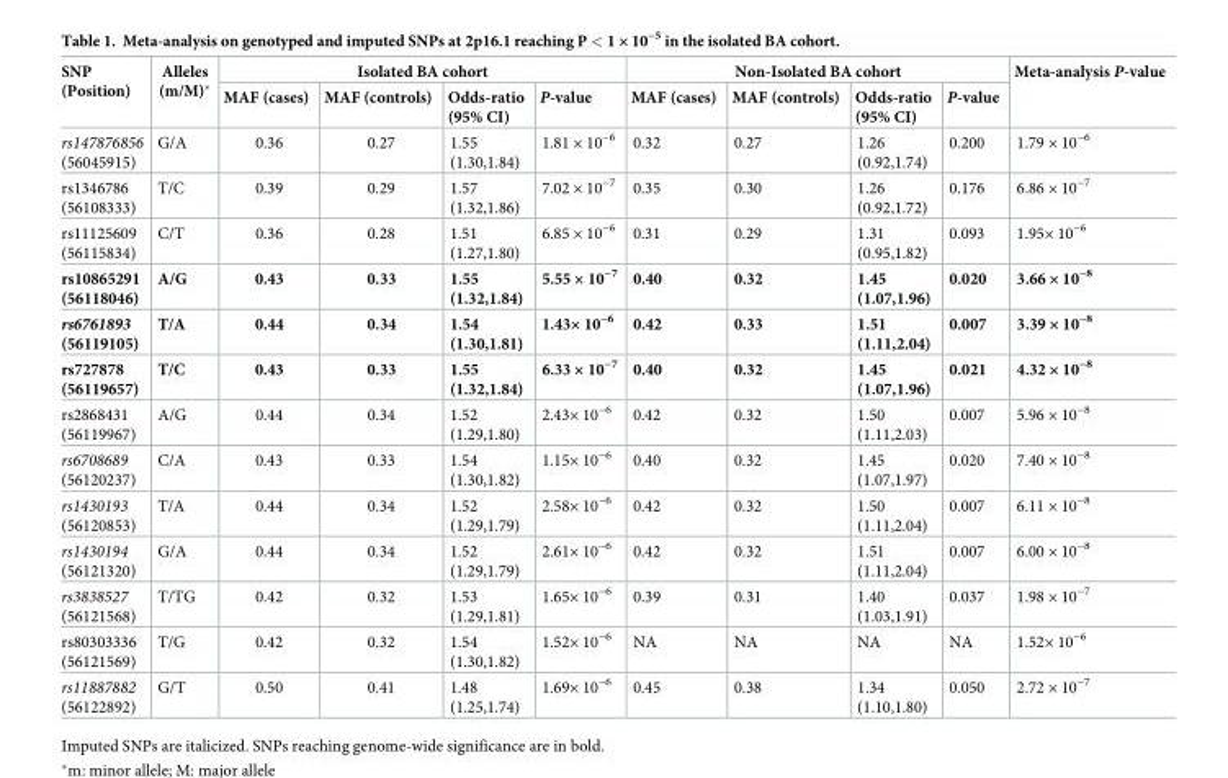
<table><thead><tr><td rowspan="2">SNP (Position)</td><td rowspan="2">Alleles (m/M)*</td><td colspan="4">Isolated BA cohort</td><td colspan="4">Non-Isolated BA cohort</td><td rowspan="2">Meta-analysis P-value</td></tr><tr><td>MAF (cases)</td><td>MAF (controls)</td><td>Odds-ratio (95% CI)</td><td>P-value</td><td>MAF (cases)</td><td>MAF (controls)</td><td>Odds-ratio (95% CI)</td><td>P-value</td></tr></thead><tbody><tr><td>rs147876856 (56045915)</td><td>G/A</td><td>0.36</td><td>0.27</td><td>1.55 (1.30,1.84)</td><td>1.81 × 10<sup>−6</sup></td><td>0.32</td><td>0.27</td><td>1.26 (0.92,1.74)</td><td>0.200</td><td>1.79 × 10<sup>−6</sup></td></tr><tr><td>rs1346786 (56108333)</td><td>T/C</td><td>0.39</td><td>0.29</td><td>1.57 (1.32,1.86)</td><td>7.02 × 10<sup>−7</sup></td><td>0.35</td><td>0.30</td><td>1.26 (0.92,1.72)</td><td>0.176</td><td>6.86 × 10<sup>−7</sup></td></tr><tr><td>rs11125609 (56115834)</td><td>C/T</td><td>0.36</td><td>0.28</td><td>1.51 (1.27,1.80)</td><td>6.85 × 10<sup>−6</sup></td><td>0.31</td><td>0.29</td><td>1.31 (0.95,1.82)</td><td>0.093</td><td>1.95× 10<sup>−6</sup></td></tr><tr><td>rs10865291 (56118046)</td><td>A/G</td><td>0.43</td><td>0.33</td><td>1.55 (1.32,1.84)</td><td>5.55 × 10<sup>−7</sup></td><td>0.40</td><td>0.32</td><td>1.45 (1.07,1.96)</td><td>0.020</td><td>3.66 × 10<sup>−8</sup></td></tr><tr><td>rs6761893 (56119105)</td><td>T/A</td><td>0.44</td><td>0.34</td><td>1.54 (1.30,1.81)</td><td>1.43× 10<sup>−6</sup></td><td>0.42</td><td>0.33</td><td>1.51 (1.11,2.04)</td><td>0.007</td><td>3.39 × 10<sup>−8</sup></td></tr><tr><td>rs727878 (56119657)</td><td>T/C</td><td>0.43</td><td>0.33</td><td>1.55 (1.32,1.84)</td><td>6.33 × 10<sup>−7</sup></td><td>0.40</td><td>0.32</td><td>1.45 (1.07,1.96)</td><td>0.021</td><td>4.32 × 10<sup>−8</sup></td></tr><tr><td>rs2868431 (56119967)</td><td>A/G</td><td>0.44</td><td>0.34</td><td>1.52 (1.29,1.80)</td><td>2.43× 10<sup>−6</sup></td><td>0.42</td><td>0.32</td><td>1.50 (1.11,2.03)</td><td>0.007</td><td>5.96 × 10<sup>−8</sup></td></tr><tr><td>rs6708689 (56120237)</td><td>C/A</td><td>0.43</td><td>0.33</td><td>1.54 (1.30,1.82)</td><td>1.15× 10<sup>−6</sup></td><td>0.40</td><td>0.32</td><td>1.45 (1.07,1.97)</td><td>0.020</td><td>7.40 × 10<sup>−8</sup></td></tr><tr><td>rs1430193 (56120853)</td><td>T/A</td><td>0.44</td><td>0.34</td><td>1.52 (1.29,1.79)</td><td>2.58× 10<sup>−6</sup></td><td>0.42</td><td>0.32</td><td>1.50 (1.11,2.04)</td><td>0.007</td><td>6.11 × 10<sup>−8</sup></td></tr><tr><td>rs1430194 (56121320)</td><td>G/A</td><td>0.44</td><td>0.34</td><td>1.52 (1.29,1.79)</td><td>2.61× 10<sup>−6</sup></td><td>0.42</td><td>0.32</td><td>1.51 (1.11,2.04)</td><td>0.007</td><td>6.00 × 10<sup>−8</sup></td></tr><tr><td>rs3838527 (56121568)</td><td>T/TG</td><td>0.42</td><td>0.32</td><td>1.53 (1.29,1.81)</td><td>1.65× 10<sup>−6</sup></td><td>0.39</td><td>0.31</td><td>1.40 (1.03,1.91)</td><td>0.037</td><td>1.98 × 10<sup>−7</sup></td></tr><tr><td>rs80303336 (56121569)</td><td>T/G</td><td>0.42</td><td>0.32</td><td>1.54 (1.30,1.82)</td><td>1.52× 10<sup>−6</sup></td><td>NA</td><td>NA</td><td>NA</td><td>NA</td><td>1.52× 10<sup>−6</sup></td></tr><tr><td>rs11887882 (56122892)</td><td>G/T</td><td>0.50</td><td>0.41</td><td>1.48 (1.25,1.74)</td><td>1.69× 10<sup>−6</sup></td><td>0.45</td><td>0.38</td><td>1.34 (1.10,1.80)</td><td>0.050</td><td>2.72 × 10<sup>−7</sup></td></tr></tbody></table>